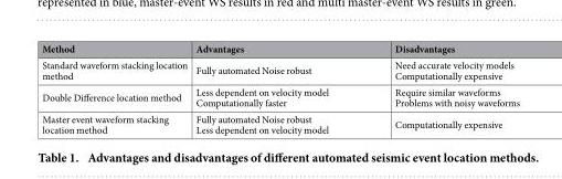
<table><thead><tr><td>Method</td><td>Advantages</td><td>Disadvantages</td></tr></thead><tbody><tr><td>Standard waveform stacking location method</td><td>Fully automated Noise robust</td><td>Need accurate velocity models Computationally expensive</td></tr><tr><td>Double Difference location method</td><td>Less dependent on velocity model Computationally faster</td><td>Require similar waveforms Problems with noisy waveforms</td></tr><tr><td>Master event waveform stacking location method</td><td>Fully automated Noise robust Less dependent on velocity model</td><td>Computationally expensive</td></tr></tbody></table>